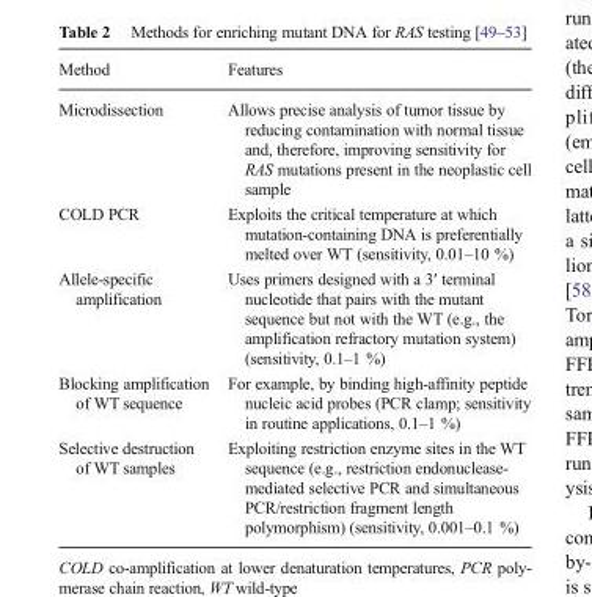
<table><thead><tr><td>Method</td><td>Features</td></tr></thead><tbody><tr><td>Microdissection</td><td>Allows precise analysis of tumor tissue by reducing contamination with normal tissue and, therefore, improving sensitivity for RAS mutations present in the neoplastic cell sample</td></tr><tr><td>COLD PCR</td><td>Exploits the critical temperature at which mutation-containing DNA is preferentially melted over WT (sensitivity, 0.01–10 %)</td></tr><tr><td>Allele-specific amplification</td><td>Uses primers designed with a 3′ terminal nucleotide that pairs with the mutant sequence but not with the WT (e.g., the amplification refractory mutation system) (sensitivity, 0.1–1 %)</td></tr><tr><td>Blocking amplification of WT sequence</td><td>For example, by binding high-affinity peptide nucleic acid probes (PCR clamp; sensitivity in routine applications, 0.1–1 %)</td></tr><tr><td>Selective destruction of WT samples</td><td>Exploiting restriction enzyme sites in the WT sequence (e.g., restriction endonuclease- mediated selective PCR and simultaneous PCR/restriction fragment length polymorphism) (sensitivity, 0.001–0.1 %)</td></tr></tbody></table>